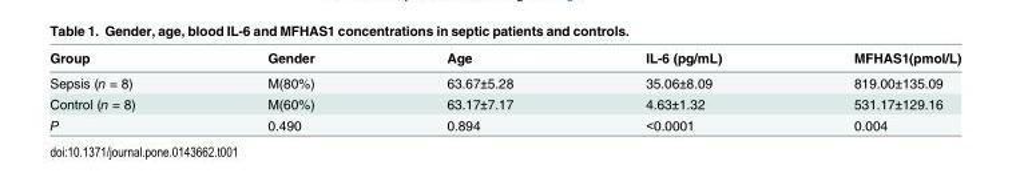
<table><thead><tr><td>Group</td><td>Gender</td><td>Age</td><td>IL-6 (pg/mL)</td><td>MFHAS1(pmol/L)</td></tr></thead><tbody><tr><td>Sepsis (n = 8)</td><td>M(80%)</td><td>63.67±5.28</td><td>35.06±8.09</td><td>819.00±135.09</td></tr><tr><td>Control (n = 8)</td><td>M(60%)</td><td>63.17±7.17</td><td>4.63±1.32</td><td>531.17±129.16</td></tr><tr><td>P</td><td>0.490</td><td>0.894</td><td>&lt;0.0001</td><td>0.004</td></tr></tbody></table>